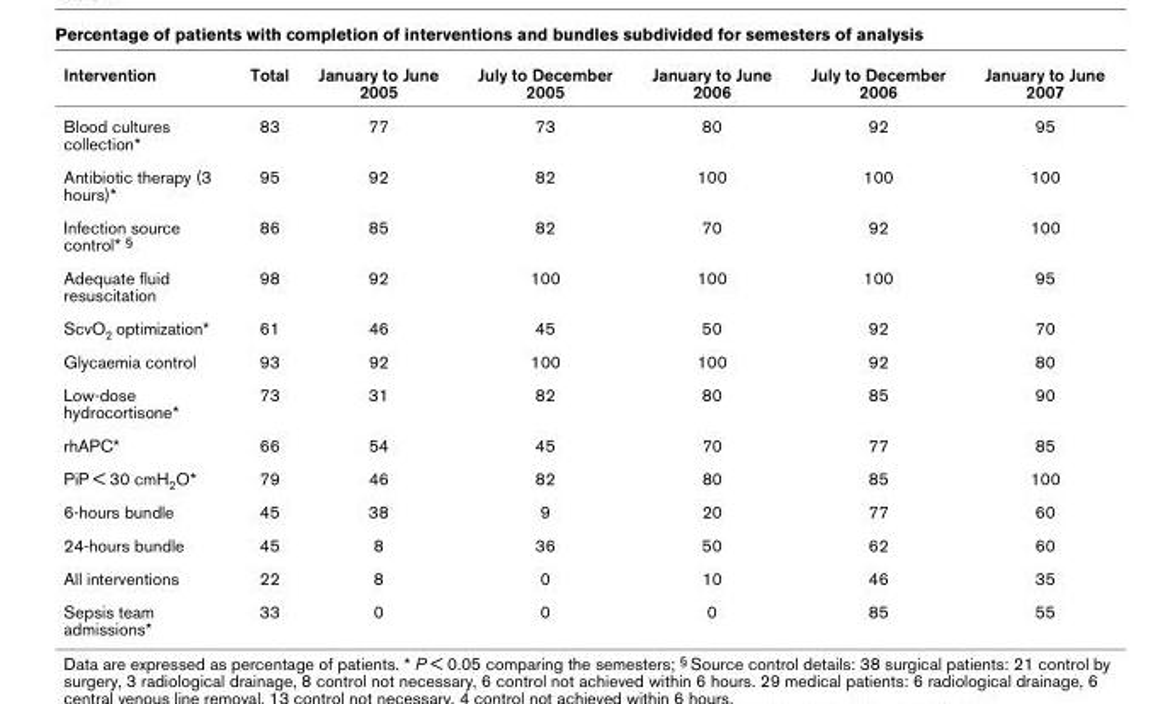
<table><thead><tr><td>Intervention</td><td>Total</td><td>January to June 2005</td><td>July to December 2005</td><td>January to June 2006</td><td>July to December 2006</td><td>January to June 2007</td></tr></thead><tbody><tr><td>Blood cultures collection*</td><td>83</td><td>77</td><td>73</td><td>80</td><td>92</td><td>95</td></tr><tr><td>Antibiotic therapy (3 hours)*</td><td>95</td><td>92</td><td>82</td><td>100</td><td>100</td><td>100</td></tr><tr><td>Infection source control* <sup>§</sup></td><td>86</td><td>85</td><td>82</td><td>70</td><td>92</td><td>100</td></tr><tr><td>Adequate fluid resuscitation</td><td>98</td><td>92</td><td>100</td><td>100</td><td>100</td><td>95</td></tr><tr><td>ScvO<sub>2</sub> optimization*</td><td>61</td><td>46</td><td>45</td><td>50</td><td>92</td><td>70</td></tr><tr><td>Glycaemia control</td><td>93</td><td>92</td><td>100</td><td>100</td><td>92</td><td>80</td></tr><tr><td>Low-dose hydrocortisone*</td><td>73</td><td>31</td><td>82</td><td>80</td><td>85</td><td>90</td></tr><tr><td>rhAPC*</td><td>66</td><td>54</td><td>45</td><td>70</td><td>77</td><td>85</td></tr><tr><td>PiP &lt; 30 cmH<sub>2</sub>O*</td><td>79</td><td>46</td><td>82</td><td>80</td><td>85</td><td>100</td></tr><tr><td>6-hours bundle</td><td>45</td><td>38</td><td>9</td><td>20</td><td>77</td><td>60</td></tr><tr><td>24-hours bundle</td><td>45</td><td>8</td><td>36</td><td>50</td><td>62</td><td>60</td></tr><tr><td>All interventions</td><td>22</td><td>8</td><td>0</td><td>10</td><td>46</td><td>35</td></tr><tr><td>Sepsis team admissions*</td><td>33</td><td>0</td><td>0</td><td>0</td><td>85</td><td>55</td></tr></tbody></table>